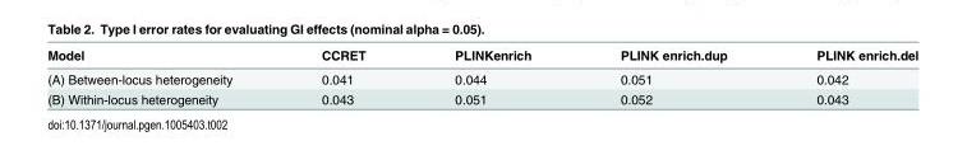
<table><thead><tr><td>Model</td><td>CCRET</td><td>PLINKenrich</td><td>PLINK enrich.dup</td><td>PLINK enrich.del</td></tr></thead><tbody><tr><td>(A) Between-locus heterogeneity</td><td>0.041</td><td>0.044</td><td>0.051</td><td>0.042</td></tr><tr><td>(B) Within-locus heterogeneity</td><td>0.043</td><td>0.051</td><td>0.052</td><td>0.043</td></tr></tbody></table>